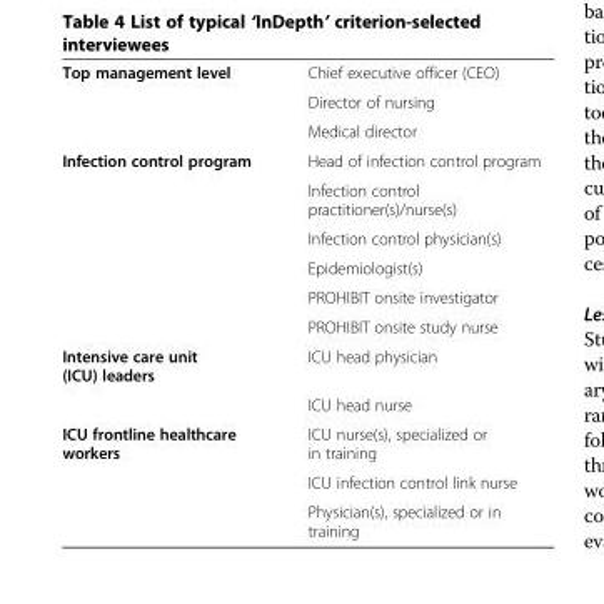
<table><tbody><tr><td rowspan="3">Top management level</td><td>Chief executive officer (CEO)</td></tr><tr><td>Director of nursing</td></tr><tr><td>Medical director</td></tr><tr><td rowspan="6">Infection control program</td><td>Head of infection control program</td></tr><tr><td>Infection control practitioner(s)/nurse(s)</td></tr><tr><td>Infection control physician(s)</td></tr><tr><td>Epidemiologist(s)</td></tr><tr><td>PROHIBIT onsite investigator</td></tr><tr><td>PROHIBIT onsite study nurse</td></tr><tr><td rowspan="2">Intensive care unit (ICU) leaders</td><td>ICU head physician</td></tr><tr><td>ICU head nurse</td></tr><tr><td rowspan="3">ICU frontline healthcare workers</td><td>ICU nurse(s), specialized or in training</td></tr><tr><td>ICU infection control link nurse</td></tr><tr><td>Physician(s), specialized or in training</td></tr></tbody></table>